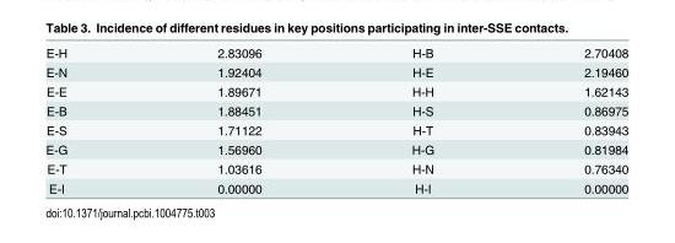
<table><tbody><tr><td>E-H</td><td>2.83096</td><td>H-B</td><td>2.70408</td></tr><tr><td>E-N</td><td>1.92404</td><td>H-E</td><td>2.19460</td></tr><tr><td>E-E</td><td>1.89671</td><td>H-H</td><td>1.62143</td></tr><tr><td>E-B</td><td>1.88451</td><td>H-S</td><td>0.86975</td></tr><tr><td>E-S</td><td>1.71122</td><td>H-T</td><td>0.83943</td></tr><tr><td>E-G</td><td>1.56960</td><td>H-G</td><td>0.81984</td></tr><tr><td>E-T</td><td>1.03616</td><td>H-N</td><td>0.76340</td></tr><tr><td>E-I</td><td>0.00000</td><td>H-I</td><td>0.00000</td></tr></tbody></table>